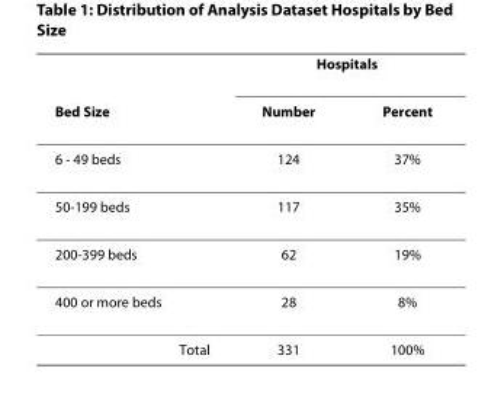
<table><thead><tr><td rowspan="2">Bed Size</td><td colspan="2">Hospitals</td></tr><tr><td>Number</td><td>Percent</td></tr></thead><tbody><tr><td>6 - 49 beds</td><td>124</td><td>37%</td></tr><tr><td>50-199 beds</td><td>117</td><td>35%</td></tr><tr><td>200-399 beds</td><td>62</td><td>19%</td></tr><tr><td>400 or more beds</td><td>28</td><td>8%</td></tr><tr><td>Total</td><td>331</td><td>100%</td></tr></tbody></table>